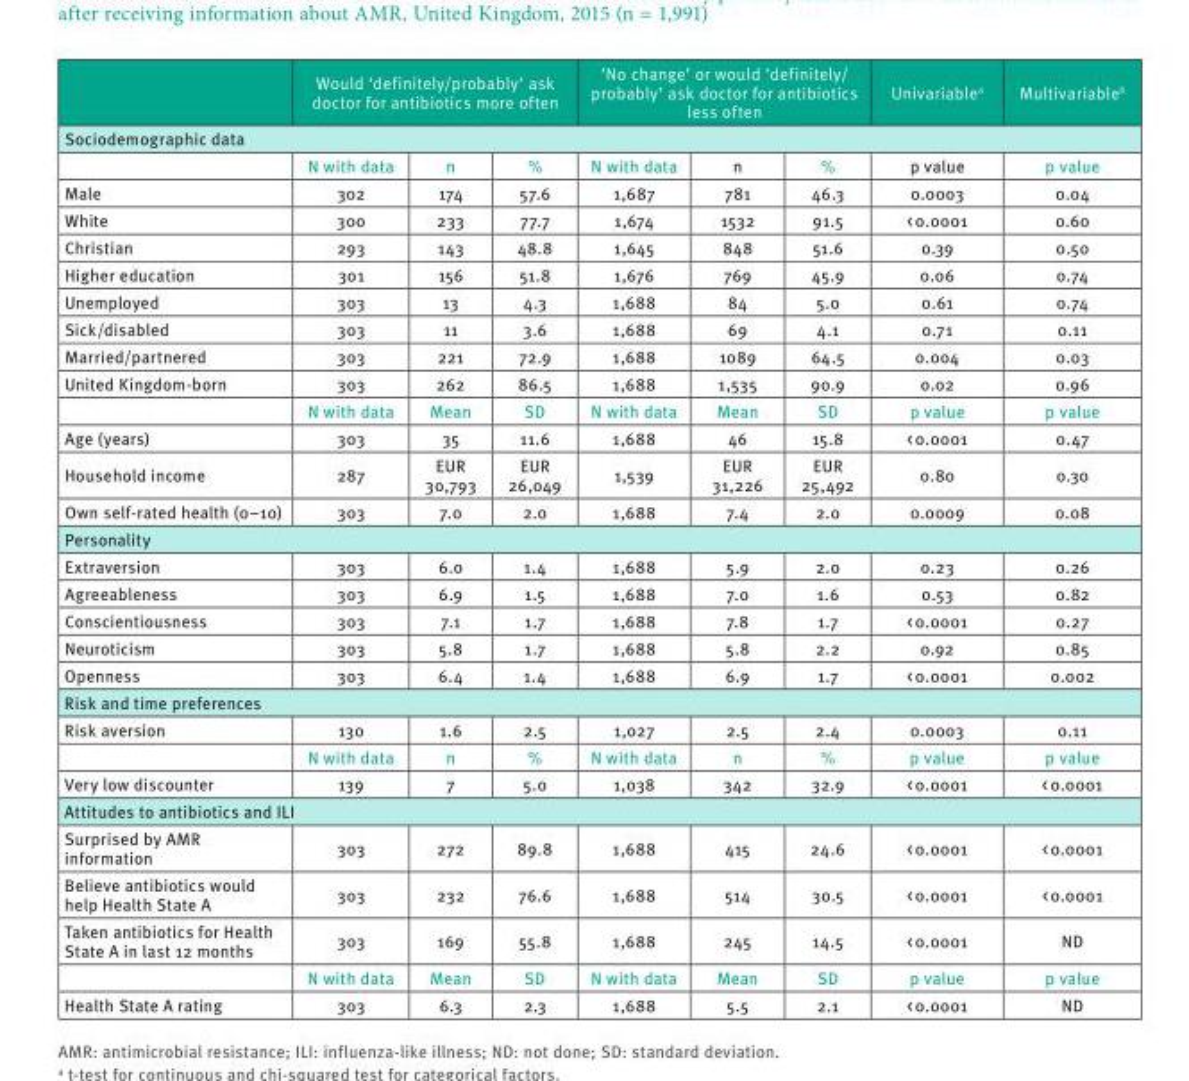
<table><thead><tr><td></td><td colspan="3">Would ‘definitely/probably’ ask doctor for antibiotics more often</td><td colspan="3">‘No change’ or would ‘definitely/ probably’ ask doctor for antibiotics less often</td><td>Univariable<sup>a</sup></td><td>Multivariable<sup>b</sup></td></tr><tr><td colspan="9">Sociodemographic data</td></tr><tr><td></td><td>N with data</td><td>n</td><td>%</td><td>N with data</td><td>n</td><td>%</td><td>p value</td><td>p value</td></tr></thead><tbody><tr><td>Male</td><td>302</td><td>174</td><td>57.6</td><td>1,687</td><td>781</td><td>46.3</td><td>0.0003</td><td>0.04</td></tr><tr><td>White</td><td>300</td><td>233</td><td>77.7</td><td>1,674</td><td>1532</td><td>91.5</td><td>&lt; 0.0001</td><td>0.60</td></tr><tr><td>Christian</td><td>293</td><td>143</td><td>48.8</td><td>1,645</td><td>848</td><td>51.6</td><td>0.39</td><td>0.50</td></tr><tr><td>Higher education</td><td>301</td><td>156</td><td>51.8</td><td>1,676</td><td>769</td><td>45.9</td><td>0.06</td><td>0.74</td></tr><tr><td>Unemployed</td><td>303</td><td>13</td><td>4.3</td><td>1,688</td><td>84</td><td>5.0</td><td>0.61</td><td>0.74</td></tr><tr><td>Sick/disabled</td><td>303</td><td>11</td><td>3.6</td><td>1,688</td><td>69</td><td>4.1</td><td>0.71</td><td>0.11</td></tr><tr><td>Married/partnered</td><td>303</td><td>221</td><td>72.9</td><td>1,688</td><td>1089</td><td>64.5</td><td>0.004</td><td>0.03</td></tr><tr><td rowspan="2">United Kingdom-born</td><td>303</td><td>262</td><td>86.5</td><td>1,688</td><td>1,535</td><td>90.9</td><td>0.02</td><td>0.96</td></tr><tr><td>N with data</td><td>Mean</td><td>SD</td><td>N with data</td><td>Mean</td><td>SD</td><td>p value</td><td>p value</td></tr><tr><td>Age (years)</td><td>303</td><td>35</td><td>11.6</td><td>1,688</td><td>46</td><td>15.8</td><td>&lt; 0.0001</td><td>0.47</td></tr><tr><td>Household income</td><td>287</td><td>EUR 30,793</td><td>EUR 26,049</td><td>1,539</td><td>EUR 31,226</td><td>EUR 25,492</td><td>0.80</td><td>0.30</td></tr><tr><td>Own self-rated health (0–10)</td><td>303</td><td>7.0</td><td>2.0</td><td>1,688</td><td>7.4</td><td>2.0</td><td>0.0009</td><td>0.08</td></tr><tr><td colspan="9">Personality</td></tr><tr><td>Extraversion</td><td>303</td><td>6.0</td><td>1.4</td><td>1,688</td><td>5.9</td><td>2.0</td><td>0.23</td><td>0.26</td></tr><tr><td>Agreeableness</td><td>303</td><td>6.9</td><td>1.5</td><td>1,688</td><td>7.0</td><td>1.6</td><td>0.53</td><td>0.82</td></tr><tr><td>Conscientiousness</td><td>303</td><td>7.1</td><td>1.7</td><td>1,688</td><td>7.8</td><td>1.7</td><td>&lt; 0.0001</td><td>0.27</td></tr><tr><td>Neuroticism</td><td>303</td><td>5.8</td><td>1.7</td><td>1,688</td><td>5.8</td><td>2.2</td><td>0.92</td><td>0.85</td></tr><tr><td>Openness</td><td>303</td><td>6.4</td><td>1.4</td><td>1,688</td><td>6.9</td><td>1.7</td><td>&lt; 0.0001</td><td>0.002</td></tr><tr><td colspan="9">Risk and time preferences</td></tr><tr><td rowspan="2">Risk aversion</td><td>130</td><td>1.6</td><td>2.5</td><td>1,027</td><td>2.5</td><td>2.4</td><td>0.0003</td><td>0.11</td></tr><tr><td>N with data</td><td>n</td><td>%</td><td>N with data</td><td>n</td><td>%</td><td>p value</td><td>p value</td></tr><tr><td>Very low discounter</td><td>139</td><td>7</td><td>5.0</td><td>1,038</td><td>342</td><td>32.9</td><td>&lt; 0.0001</td><td>&lt; 0.0001</td></tr><tr><td colspan="9">Attitudes to antibiotics and ILI</td></tr><tr><td>Surprised by AMR information</td><td>303</td><td>272</td><td>89.8</td><td>1,688</td><td>415</td><td>24.6</td><td>&lt; 0.0001</td><td>&lt; 0.0001</td></tr><tr><td>Believe antibiotics would help Health State A</td><td>303</td><td>232</td><td>76.6</td><td>1,688</td><td>514</td><td>30.5</td><td>&lt; 0.0001</td><td>&lt; 0.0001</td></tr><tr><td rowspan="2">Taken antibiotics for Health State A in last 12 months</td><td>303</td><td>169</td><td>55.8</td><td>1,688</td><td>245</td><td>14.5</td><td>&lt; 0.0001</td><td>ND</td></tr><tr><td>N with data</td><td>Mean</td><td>SD</td><td>N with data</td><td>Mean</td><td>SD</td><td>p value</td><td>p value</td></tr><tr><td>Health State A rating</td><td>303</td><td>6.3</td><td>2.3</td><td>1,688</td><td>5.5</td><td>2.1</td><td>&lt; 0.0001</td><td>ND</td></tr></tbody></table>